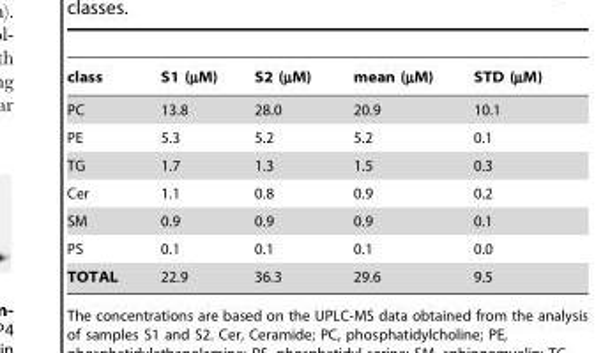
<table><thead><tr><td>class</td><td>S1 (µM)</td><td>S2 (µM)</td><td>mean (µM)</td><td>STD (µM)</td></tr></thead><tbody><tr><td>PC</td><td>13.8</td><td>28.0</td><td>20.9</td><td>10.1</td></tr><tr><td>PE</td><td>5.3</td><td>5.2</td><td>5.2</td><td>0.1</td></tr><tr><td>TG</td><td>1.7</td><td>1.3</td><td>1.5</td><td>0.3</td></tr><tr><td>Cer</td><td>1.1</td><td>0.8</td><td>0.9</td><td>0.2</td></tr><tr><td>SM</td><td>0.9</td><td>0.9</td><td>0.9</td><td>0.1</td></tr><tr><td>PS</td><td>0.1</td><td>0.1</td><td>0.1</td><td>0.0</td></tr><tr><td>TOTAL</td><td>22.9</td><td>36.3</td><td>29.6</td><td>9.5</td></tr></tbody></table>